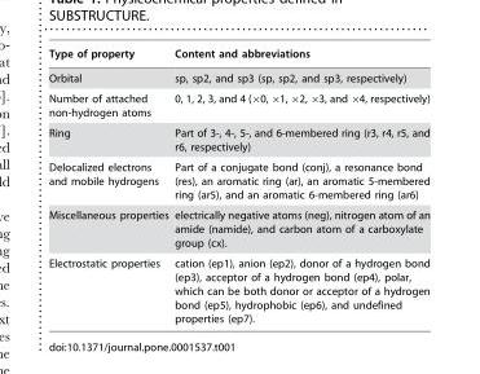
<table><thead><tr><td>Type of property</td><td>Content and abbreviations</td></tr></thead><tbody><tr><td>Orbital</td><td>sp, sp2, and sp3 (sp, sp2, and sp3, respectively)</td></tr><tr><td>Number of attached non-hydrogen atoms</td><td>0, 1, 2, 3, and 4 (×0, ×1, ×2, ×3, and ×4, respectively)</td></tr><tr><td>Ring</td><td>Part of 3-, 4-, 5-, and 6-membered ring (r3, r4, r5, and r6, respectively)</td></tr><tr><td>Delocalized electrons and mobile hydrogens</td><td>Part of a conjugate bond (conj), a resonance bond (res), an aromatic ring (ar), an aromatic 5-membered ring (ar5), and an aromatic 6-membered ring (ar6)</td></tr><tr><td>Miscellaneous properties</td><td>electrically negative atoms (neg), nitrogen atom of an amide (namide), and carbon atom of a carboxylate group (cx).</td></tr><tr><td>Electrostatic properties</td><td>cation (ep1), anion (ep2), donor of a hydrogen bond (ep3), acceptor of a hydrogen bond (ep4), polar, which can be both donor or acceptor of a hydrogen bond (ep5), hydrophobic (ep6), and undefined properties (ep7).</td></tr></tbody></table>